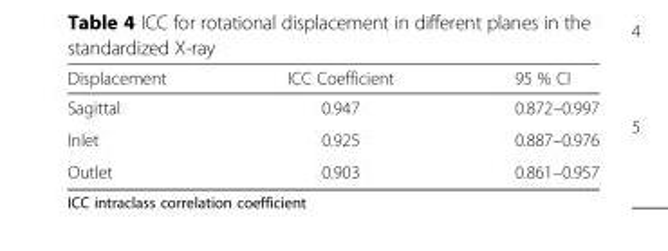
<table><thead><tr><td>Displacement</td><td>ICC Coefficient</td><td>95 % CI</td></tr></thead><tbody><tr><td>Sagittal</td><td>0.947</td><td>0.872–0.997</td></tr><tr><td>Inlet</td><td>0.925</td><td>0.887–0.976</td></tr><tr><td>Outlet</td><td>0.903</td><td>0.861–0.957</td></tr></tbody></table>